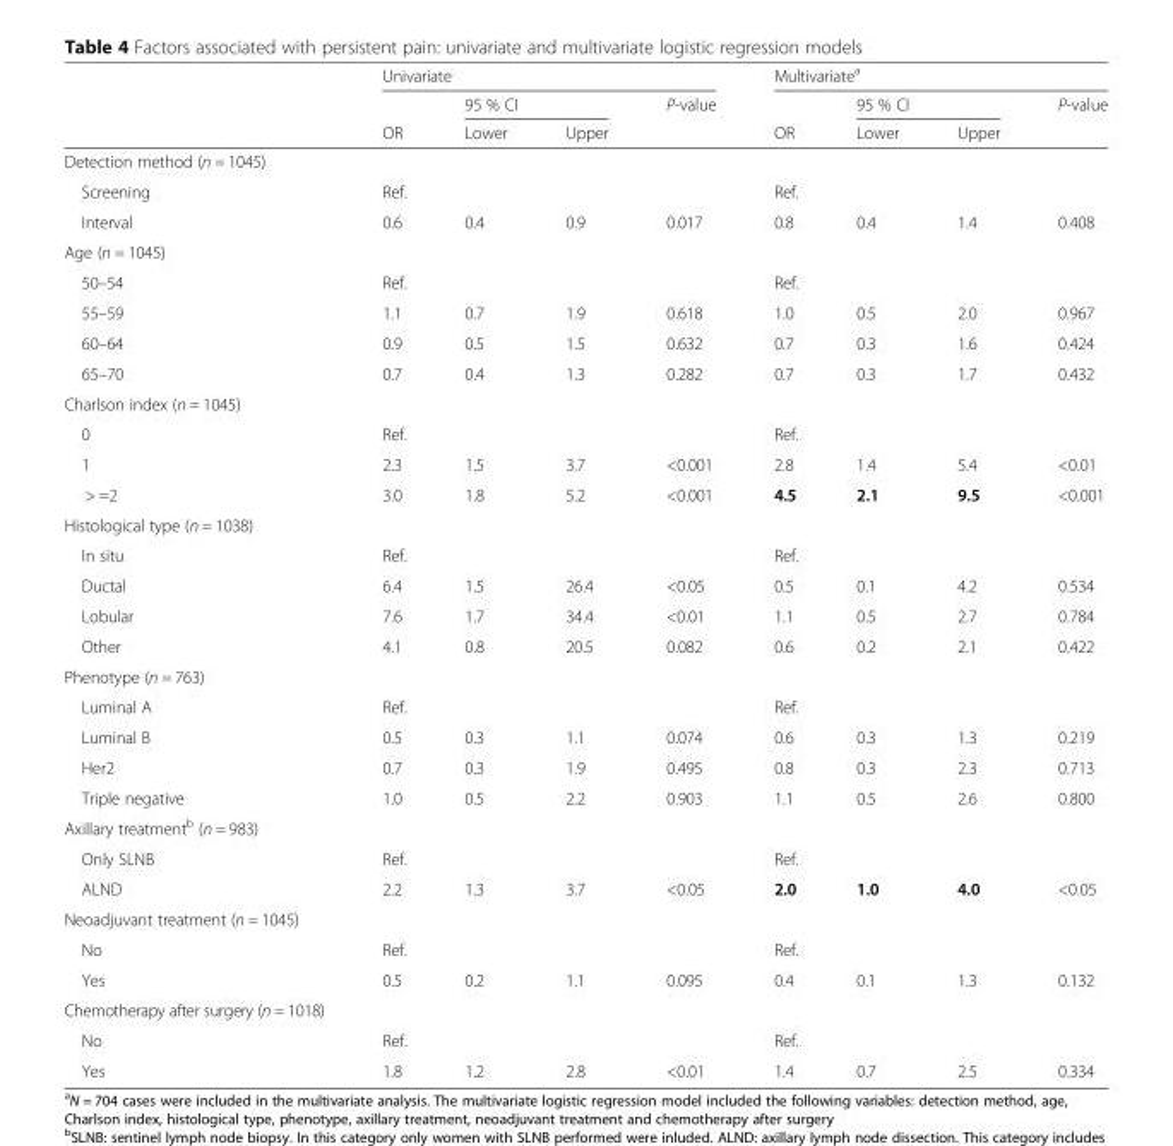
<table><thead><tr><td rowspan="3"></td><td colspan="4">Univariate</td><td colspan="4">Multivariate<sup>a</sup></td></tr><tr><td rowspan="2">OR</td><td colspan="2">95 % CI</td><td rowspan="2">P-value</td><td rowspan="2">OR</td><td colspan="2">95 % CI</td><td rowspan="2">P-value</td></tr><tr><td>Lower</td><td>Upper</td><td>Lower</td><td>Upper</td></tr></thead><tbody><tr><td colspan="9">Detection method (n = 1045)</td></tr><tr><td>Screening</td><td>Ref.</td><td></td><td></td><td></td><td>Ref.</td><td></td><td></td><td></td></tr><tr><td>Interval</td><td>0.6</td><td>0.4</td><td>0.9</td><td>0.017</td><td>0.8</td><td>0.4</td><td>1.4</td><td>0.408</td></tr><tr><td colspan="9">Age (n = 1045)</td></tr><tr><td>50–54</td><td>Ref.</td><td></td><td></td><td></td><td>Ref.</td><td></td><td></td><td></td></tr><tr><td>55–59</td><td>1.1</td><td>0.7</td><td>1.9</td><td>0.618</td><td>1.0</td><td>0.5</td><td>2.0</td><td>0.967</td></tr><tr><td>60–64</td><td>0.9</td><td>0.5</td><td>1.5</td><td>0.632</td><td>0.7</td><td>0.3</td><td>1.6</td><td>0.424</td></tr><tr><td>65–70</td><td>0.7</td><td>0.4</td><td>1.3</td><td>0.282</td><td>0.7</td><td>0.3</td><td>1.7</td><td>0.432</td></tr><tr><td colspan="9">Charlson index (n = 1045)</td></tr><tr><td>0</td><td>Ref.</td><td></td><td></td><td></td><td>Ref.</td><td></td><td></td><td></td></tr><tr><td>1</td><td>2.3</td><td>1.5</td><td>3.7</td><td>&lt;0.001</td><td>2.8</td><td>1.4</td><td>5.4</td><td>&lt;0.01</td></tr><tr><td>&gt; =2</td><td>3.0</td><td>1.8</td><td>5.2</td><td>&lt;0.001</td><td>4.5</td><td>2.1</td><td>9.5</td><td>&lt;0.001</td></tr><tr><td colspan="9">Histological type (n = 1038)</td></tr><tr><td>In situ</td><td>Ref.</td><td></td><td></td><td></td><td>Ref.</td><td></td><td></td><td></td></tr><tr><td>Ductal</td><td>6.4</td><td>1.5</td><td>26.4</td><td>&lt;0.05</td><td>0.5</td><td>0.1</td><td>4.2</td><td>0.534</td></tr><tr><td>Lobular</td><td>7.6</td><td>1.7</td><td>34.4</td><td>&lt;0.01</td><td>1.1</td><td>0.5</td><td>2.7</td><td>0.784</td></tr><tr><td>Other</td><td>4.1</td><td>0.8</td><td>20.5</td><td>0.082</td><td>0.6</td><td>0.2</td><td>2.1</td><td>0.422</td></tr><tr><td colspan="9">Phenotype (n = 763)</td></tr><tr><td>Luminal A</td><td>Ref.</td><td></td><td></td><td></td><td>Ref.</td><td></td><td></td><td></td></tr><tr><td>Luminal B</td><td>0.5</td><td>0.3</td><td>1.1</td><td>0.074</td><td>0.6</td><td>0.3</td><td>1.3</td><td>0.219</td></tr><tr><td>Her2</td><td>0.7</td><td>0.3</td><td>1.9</td><td>0.495</td><td>0.8</td><td>0.3</td><td>2.3</td><td>0.713</td></tr><tr><td>Triple negative</td><td>1.0</td><td>0.5</td><td>2.2</td><td>0.903</td><td>1.1</td><td>0.5</td><td>2.6</td><td>0.800</td></tr><tr><td colspan="9">Axillary treatment<sup>b</sup> (n = 983)</td></tr><tr><td>Only SLNB</td><td>Ref.</td><td></td><td></td><td></td><td>Ref.</td><td></td><td></td><td></td></tr><tr><td>ALND</td><td>2.2</td><td>1.3</td><td>3.7</td><td>&lt;0.05</td><td>2.0</td><td>1.0</td><td>4.0</td><td>&lt;0.05</td></tr><tr><td colspan="9">Neoadjuvant treatment (n = 1045)</td></tr><tr><td>No</td><td>Ref.</td><td></td><td></td><td></td><td>Ref.</td><td></td><td></td><td></td></tr><tr><td>Yes</td><td>0.5</td><td>0.2</td><td>1.1</td><td>0.095</td><td>0.4</td><td>0.1</td><td>1.3</td><td>0.132</td></tr><tr><td colspan="9">Chemotherapy after surgery (n = 1018)</td></tr><tr><td>No</td><td>Ref.</td><td></td><td></td><td></td><td>Ref.</td><td></td><td></td><td></td></tr><tr><td>Yes</td><td>1.8</td><td>1.2</td><td>2.8</td><td>&lt;0.01</td><td>1.4</td><td>0.7</td><td>2.5</td><td>0.334</td></tr></tbody></table>